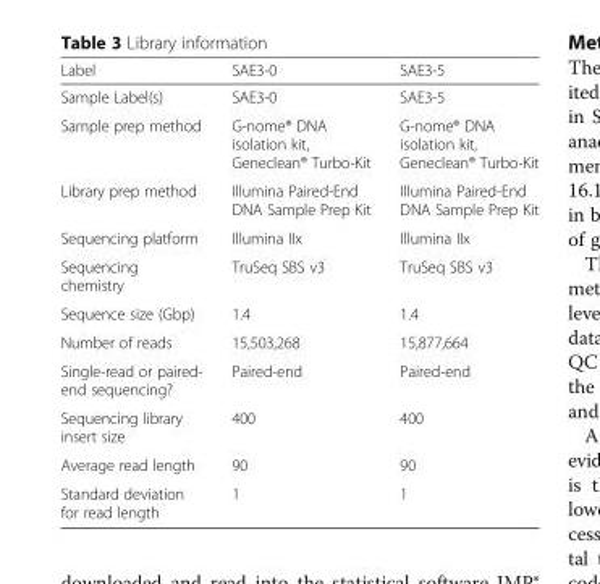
<table><thead><tr><td>Label</td><td>SAE3-0</td><td>SAE3-5</td></tr></thead><tbody><tr><td>Sample Label(s)</td><td>SAE3-0</td><td>SAE3-5</td></tr><tr><td>Sample prep method</td><td>G-nome® DNA isolation kit, Geneclean® Turbo-Kit</td><td>G-nome® DNA isolation kit, Geneclean® Turbo-Kit</td></tr><tr><td>Library prep method</td><td>Illumina Paired-End DNA Sample Prep Kit</td><td>Illumina Paired-End DNA Sample Prep Kit</td></tr><tr><td>Sequencing platform</td><td>Illumina IIx</td><td>Illumina IIx</td></tr><tr><td>Sequencing chemistry</td><td>TruSeq SBS v3</td><td>TruSeq SBS v3</td></tr><tr><td>Sequence size (Gbp)</td><td>1.4</td><td>1.4</td></tr><tr><td>Number of reads</td><td>15,503,268</td><td>15,877,664</td></tr><tr><td>Single-read or paired- end sequencing?</td><td>Paired-end</td><td>Paired-end</td></tr><tr><td>Sequencing library insert size</td><td>400</td><td>400</td></tr><tr><td>Average read length</td><td>90</td><td>90</td></tr><tr><td>Standard deviation for read length</td><td>1</td><td>1</td></tr></tbody></table>